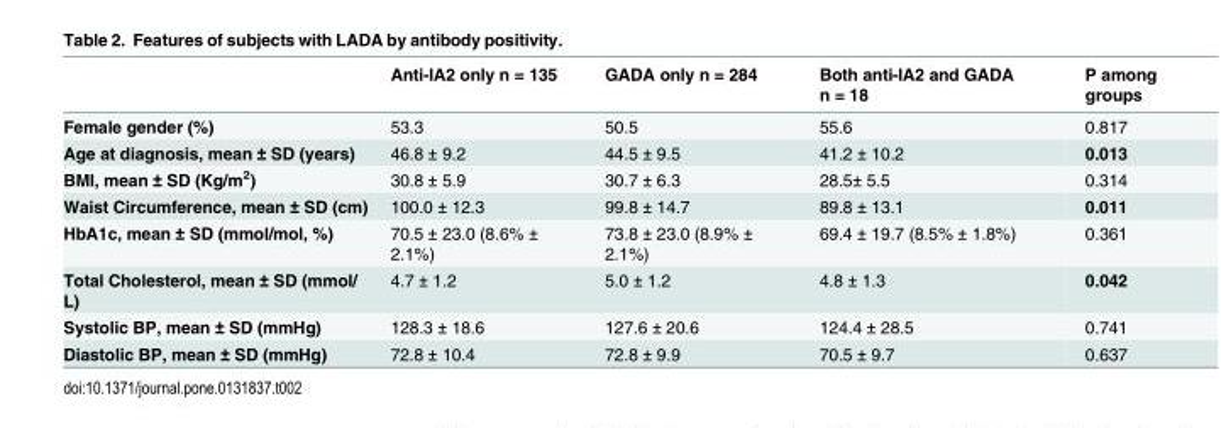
<table><thead><tr><td></td><td>Anti-IA2 only n = 135</td><td>GADA only n = 284</td><td>Both anti-IA2 and GADA n = 18</td><td>P among groups</td></tr></thead><tbody><tr><td>Female gender (%)</td><td>53.3</td><td>50.5</td><td>55.6</td><td>0.817</td></tr><tr><td>Age at diagnosis, mean ± SD (years)</td><td>46.8 ± 9.2</td><td>44.5 ± 9.5</td><td>41.2 ± 10.2</td><td>0.013</td></tr><tr><td>BMI, mean ± SD (Kg/m<sup>2</sup>)</td><td>30.8 ± 5.9</td><td>30.7 ± 6.3</td><td>28.5± 5.5</td><td>0.314</td></tr><tr><td>Waist Circumference, mean ± SD (cm)</td><td>100.0 ± 12.3</td><td>99.8 ± 14.7</td><td>89.8 ± 13.1</td><td>0.011</td></tr><tr><td>HbA1c, mean ± SD (mmol/mol, %)</td><td>70.5 ± 23.0 (8.6% ± 2.1%)</td><td>73.8 ± 23.0 (8.9% ± 2.1%)</td><td>69.4 ± 19.7 (8.5% ± 1.8%)</td><td>0.361</td></tr><tr><td>Total Cholesterol, mean ± SD (mmol/ L)</td><td>4.7 ± 1.2</td><td>5.0 ± 1.2</td><td>4.8 ± 1.3</td><td>0.042</td></tr><tr><td>Systolic BP, mean ± SD (mmHg)</td><td>128.3 ± 18.6</td><td>127.6 ± 20.6</td><td>124.4 ± 28.5</td><td>0.741</td></tr><tr><td>Diastolic BP, mean ± SD (mmHg)</td><td>72.8 ± 10.4</td><td>72.8 ± 9.9</td><td>70.5 ± 9.7</td><td>0.637</td></tr></tbody></table>